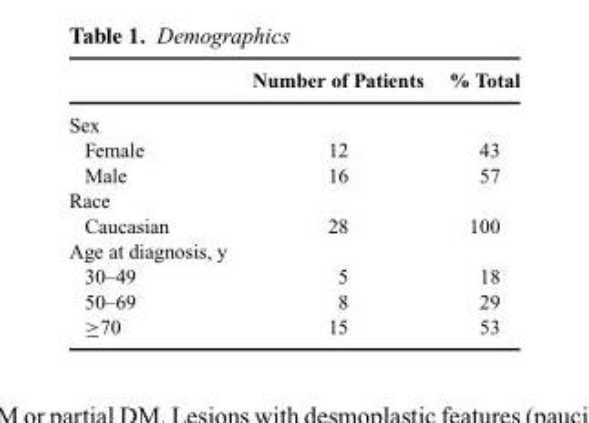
<table><thead><tr><td></td><td>Number of Patients</td><td>% Total</td></tr></thead><tbody><tr><td colspan="3">Sex</td></tr><tr><td>Female</td><td>12</td><td>43</td></tr><tr><td>Male</td><td>16</td><td>57</td></tr><tr><td colspan="3">Race</td></tr><tr><td>Caucasian</td><td>28</td><td>100</td></tr><tr><td colspan="3">Age at diagnosis, y</td></tr><tr><td>30–49</td><td>5</td><td>18</td></tr><tr><td>50–69</td><td>8</td><td>29</td></tr><tr><td>≥70</td><td>15</td><td>53</td></tr></tbody></table>